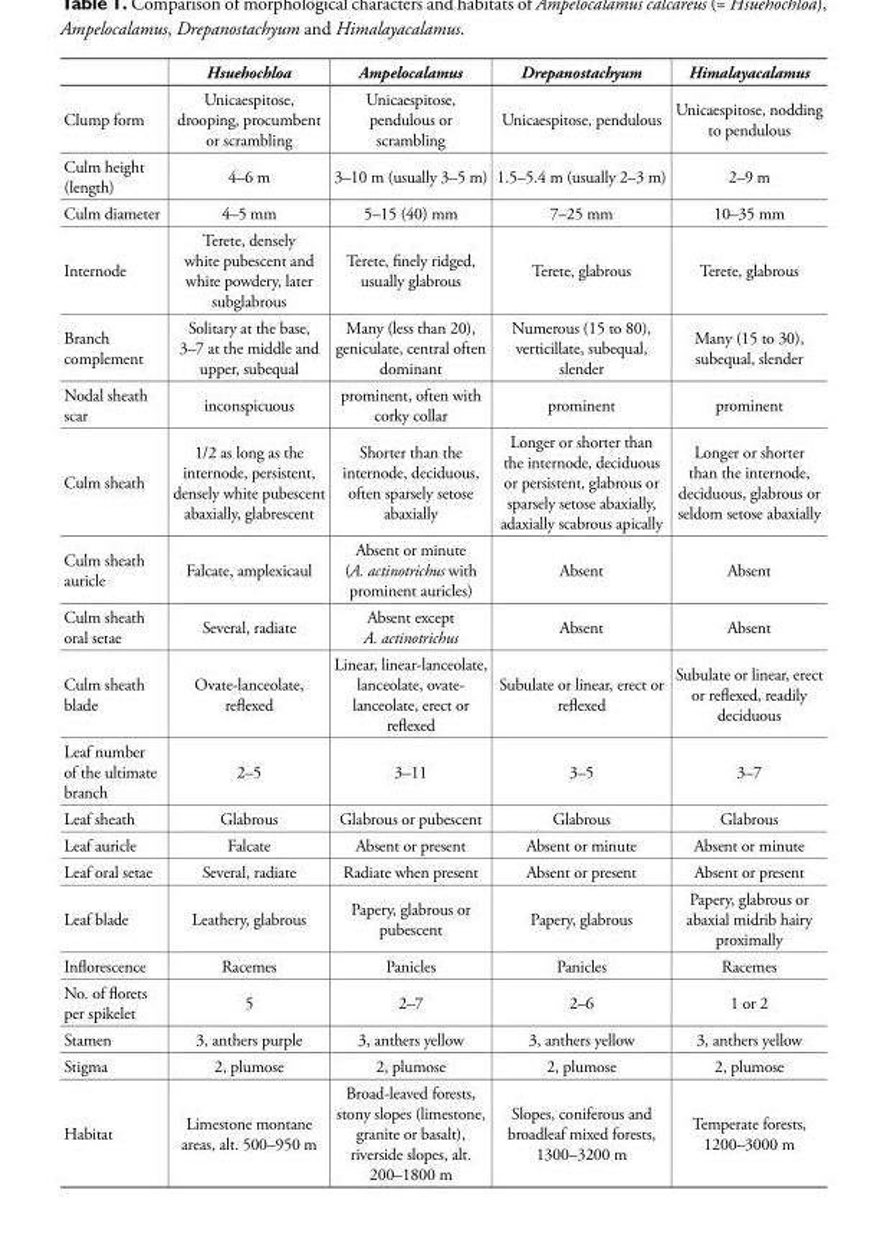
<table><thead><tr><td></td><td>Hsuehochloa</td><td>Ampelocalamus</td><td>Drepanostachyum</td><td>Himalayacalamus</td></tr></thead><tbody><tr><td>Clump form</td><td>Unicaespitose, drooping, procumbent or scrambling</td><td>Unicaespitose, pendulous or scrambling</td><td>Unicaespitose, pendulous</td><td>Unicaespitose, nodding to pendulous</td></tr><tr><td>Culm height (length)</td><td>4–6 m</td><td>3–10 m (usually 3–5 m)</td><td>1.5–5.4 m (usually 2–3 m)</td><td>2–9 m</td></tr><tr><td>Culm diameter</td><td>4–5 mm</td><td>5–15 (40) mm</td><td>7–25 mm</td><td>10–35 mm</td></tr><tr><td>Internode</td><td>Terete, densely white pubescent and white powdery, later subglabrous</td><td>Terete, finely ridged, usually glabrous</td><td>Terete, glabrous</td><td>Terete, glabrous</td></tr><tr><td>Branch complement</td><td>Solitary at the base, 3–7 at the middle and upper, subequal</td><td>Many (less than 20), geniculate, central often dominant</td><td>Numerous (15 to 80), verticillate, subequal, slender</td><td>Many (15 to 30), subequal, slender</td></tr><tr><td>Nodal sheath scar</td><td>inconspicuous</td><td>prominent, often with corky collar</td><td>prominent</td><td>prominent</td></tr><tr><td>Culm sheath</td><td>1/2 as long as the internode, persistent, densely white pubescent abaxially, glabrescent</td><td>Shorter than the internode, deciduous, often sparsely setose abaxially</td><td>Longer or shorter than the internode, deciduous or persistent, glabrous or sparsely setose abaxially, adaxially scabrous apically</td><td>Longer or shorter than the internode, deciduous, glabrous or seldom setose abaxially</td></tr><tr><td>Culm sheath auricle</td><td>Falcate, amplexicaul</td><td>Absent or minute (A. actinotrichus with prominent auricles)</td><td>Absent</td><td>Absent</td></tr><tr><td>Culm sheath oral setae</td><td>Several, radiate</td><td>Absent except A. actinotrichus</td><td>Absent</td><td>Absent</td></tr><tr><td>Culm sheath blade</td><td>Ovate-lanceolate, reflexed</td><td>Linear, linear-lanceolate, lanceolate, ovate- lanceolate, erect or reflexed</td><td>Subulate or linear, erect or reflexed</td><td>Subulate or linear, erect or reflexed, readily deciduous</td></tr><tr><td>Leaf number of the ultimate branch</td><td>2–5</td><td>3–11</td><td>3–5</td><td>3–7</td></tr><tr><td>Leaf sheath</td><td>Glabrous</td><td>Glabrous or pubescent</td><td>Glabrous</td><td>Glabrous</td></tr><tr><td>Leaf auricle</td><td>Falcate</td><td>Absent or present</td><td>Absent or minute</td><td>Absent or minute</td></tr><tr><td>Leaf oral setae</td><td>Several, radiate</td><td>Radiate when present</td><td>Absent or present</td><td>Absent or present</td></tr><tr><td>Leaf blade</td><td>Leathery, glabrous</td><td>Papery, glabrous or pubescent</td><td>Papery, glabrous</td><td>Papery, glabrous or abaxial midrib hairy proximally</td></tr><tr><td>Inflorescence</td><td>Racemes</td><td>Panicles</td><td>Panicles</td><td>Racemes</td></tr><tr><td>No. of florets per spikelet</td><td>5</td><td>2–7</td><td>2–6</td><td>1 or 2</td></tr><tr><td>Stamen</td><td>3, anthers purple</td><td>3, anthers yellow</td><td>3, anthers yellow</td><td>3, anthers yellow</td></tr><tr><td>Stigma</td><td>2, plumose</td><td>2, plumose</td><td>2, plumose</td><td>2, plumose</td></tr><tr><td>Habitat</td><td>Limestone montane areas, alt. 500–950 m</td><td>Broad-leaved forests, stony slopes (limestone, granite or basalt), riverside slopes, alt. 200–1800 m</td><td>Slopes, coniferous and broadleaf mixed forests, 1300–3200 m</td><td>Temperate forests, 1200–3000 m</td></tr></tbody></table>